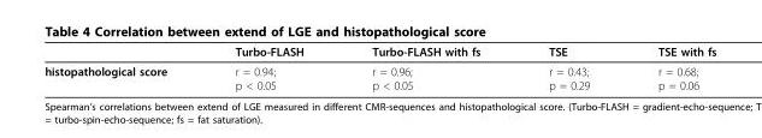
<table><thead><tr><td></td><td>Turbo-FLASH</td><td>Turbo-FLASH with fs</td><td>TSE</td><td>TSE with fs</td></tr></thead><tbody><tr><td>histopathological score</td><td>r = 0.94; p &lt; 0.05</td><td>r = 0.96; p &lt; 0.05</td><td>r = 0.43; p = 0.29</td><td>r = 0.68; p = 0.06</td></tr></tbody></table>